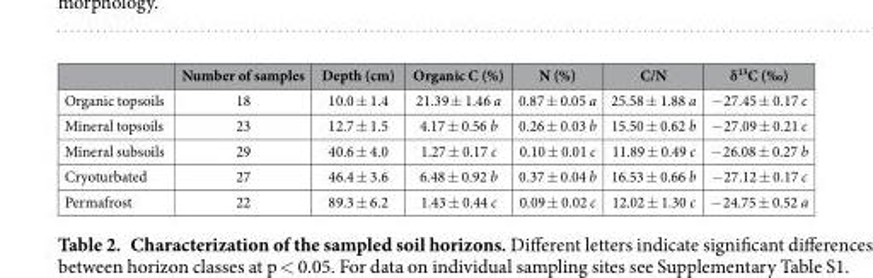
<table><thead><tr><td></td><td>Number of samples</td><td>Depth (cm)</td><td>Organic C (%)</td><td>N (%)</td><td>C/N</td><td>δ<sup>13</sup>C (‰)</td></tr></thead><tbody><tr><td>Organic topsoils</td><td>18</td><td>10.0 ± 1.4</td><td>21.39 ± 1.46 a</td><td>0.87 ± 0.05 a</td><td>25.58 ± 1.88 a</td><td>− 27.45 ± 0.17 c</td></tr><tr><td>Mineral topsoils</td><td>23</td><td>12.7 ± 1.5</td><td>4.17 ± 0.56 b</td><td>0.26 ± 0.03 b</td><td>15.50 ± 0.62 b</td><td>− 27.09 ± 0.21 c</td></tr><tr><td>Mineral subsoils</td><td>29</td><td>40.6 ± 4.0</td><td>1.27 ± 0.17 c</td><td>0.10 ± 0.01 c</td><td>11.89 ± 0.49 c</td><td>− 26.08 ± 0.27 b</td></tr><tr><td>Cryoturbated</td><td>27</td><td>46.4 ± 3.6</td><td>6.48 ± 0.92 b</td><td>0.37 ± 0.04 b</td><td>16.53 ± 0.66 b</td><td>− 27.12 ± 0.17 c</td></tr><tr><td>Permafrost</td><td>22</td><td>89.3 ± 6.2</td><td>1.43 ± 0.44 c</td><td>0.09 ± 0.02 c</td><td>12.02 ± 1.30 c</td><td>− 24.75 ± 0.52 a</td></tr></tbody></table>